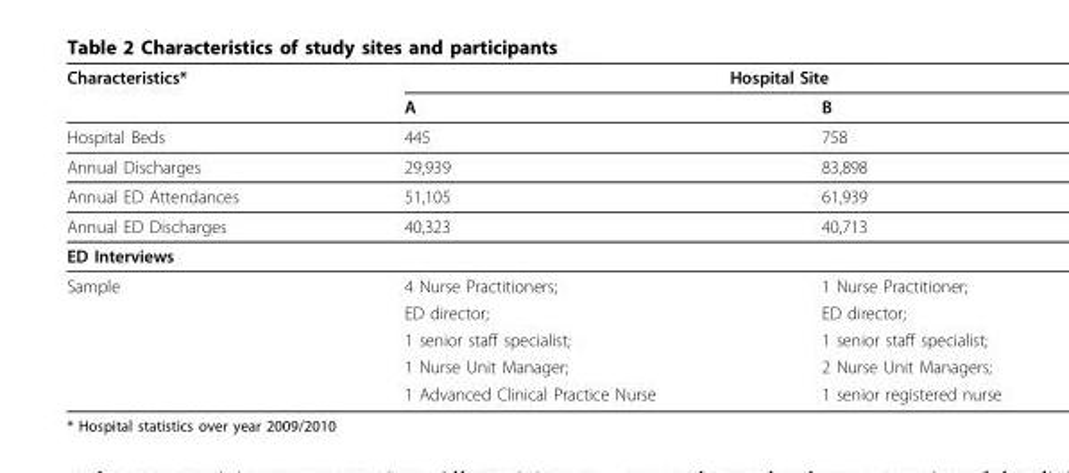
<table><thead><tr><td rowspan="2">Characteristics*</td><td colspan="2">Hospital Site</td></tr><tr><td>A</td><td>B</td></tr></thead><tbody><tr><td>Hospital Beds</td><td>445</td><td>758</td></tr><tr><td>Annual Discharges</td><td>29,939</td><td>83,898</td></tr><tr><td>Annual ED Attendances</td><td>51,105</td><td>61,939</td></tr><tr><td>Annual ED Discharges</td><td>40,323</td><td>40,713</td></tr><tr><td colspan="3">ED Interviews</td></tr><tr><td rowspan="5">Sample</td><td>4 Nurse Practitioners;</td><td>1 Nurse Practitioner;</td></tr><tr><td>ED director;</td><td>ED director;</td></tr><tr><td>1 senior staff specialist;</td><td>1 senior staff specialist;</td></tr><tr><td>1 Nurse Unit Manager;</td><td>2 Nurse Unit Managers;</td></tr><tr><td>1 Advanced Clinical Practice Nurse</td><td>1 senior registered nurse</td></tr></tbody></table>